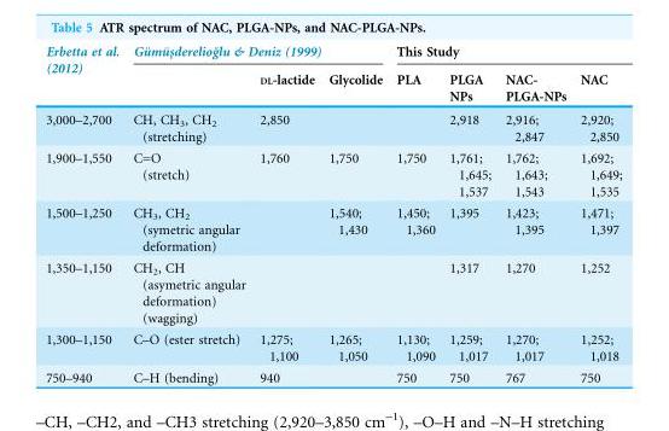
<table><thead><tr><td rowspan="2">Erbetta et al. (2012)</td><td colspan="3">Gu¨mu¨s¸dereliog˘lu &amp; Deniz (1999)</td><td colspan="4">This Study</td></tr><tr><td></td><td>DL-lactide</td><td>Glycolide</td><td>PLA</td><td>PLGA NPs</td><td>NAC- PLGA-NPs</td><td>NAC</td></tr></thead><tbody><tr><td>3,000–2,700</td><td>CH, CH<sub>3</sub>, CH<sub>2</sub> (stretching)</td><td>2,850</td><td></td><td></td><td>2,918</td><td>2,916; 2,847</td><td>2,920; 2,850</td></tr><tr><td>1,900–1,550</td><td>C=O (stretch)</td><td>1,760</td><td>1,750</td><td>1,750</td><td>1,761; 1,645; 1,537</td><td>1,762; 1,643; 1,543</td><td>1,692; 1,649; 1,535</td></tr><tr><td>1,500–1,250</td><td>CH<sub>3</sub>, CH<sub>2</sub> (symetric angular deformation)</td><td></td><td>1,540; 1,430</td><td>1,450; 1,360</td><td>1,395</td><td>1,423; 1,395</td><td>1,471; 1,397</td></tr><tr><td>1,350–1,150</td><td>CH<sub>2</sub>, CH (asymetric angular deformation) (wagging)</td><td></td><td></td><td></td><td>1,317</td><td>1,270</td><td>1,252</td></tr><tr><td>1,300–1,150</td><td>C–O (ester stretch)</td><td>1,275; 1,100</td><td>1,265; 1,050</td><td>1,130; 1,090</td><td>1,259; 1,017</td><td>1,270; 1,017</td><td>1,252; 1,018</td></tr><tr><td>750–940</td><td>C–H (bending)</td><td>940</td><td></td><td>750</td><td>750</td><td>767</td><td>750</td></tr></tbody></table>